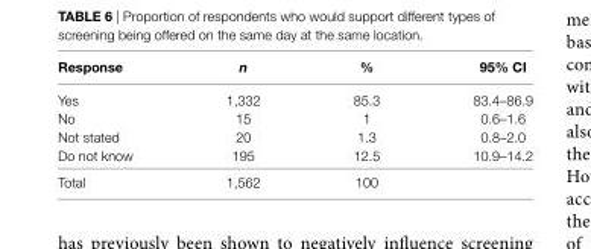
<table><thead><tr><td>response</td><td>n</td><td>%</td><td>95% ci</td></tr></thead><tbody><tr><td>Yes</td><td>1,332</td><td>85.3</td><td>83.4–86.9</td></tr><tr><td>No</td><td>15</td><td>1</td><td>0.6–1.6</td></tr><tr><td>Not stated</td><td>20</td><td>1.3</td><td>0.8–2.0</td></tr><tr><td>Do not know</td><td>195</td><td>12.5</td><td>10.9–14.2</td></tr><tr><td>Total</td><td>1,562</td><td>100</td><td></td></tr></tbody></table>